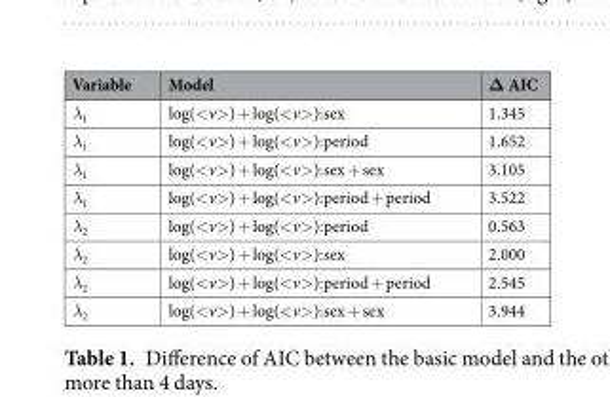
<table><thead><tr><td>Variable</td><td>Model</td><td>Δ AIC</td></tr></thead><tbody><tr><td>λ<sub>1</sub></td><td>log(&lt;v&gt;) + log(&lt;v&gt;):sex</td><td>1.345</td></tr><tr><td>λ<sub>1</sub></td><td>log(&lt;v&gt;) + log(&lt;v&gt;):period</td><td>1.652</td></tr><tr><td>λ<sub>1</sub></td><td>log(&lt;v&gt;) + log(&lt;v&gt;):sex + sex</td><td>3.105</td></tr><tr><td>λ<sub>1</sub></td><td>log(&lt;v&gt;) + log(&lt;v&gt;):period + period</td><td>3.522</td></tr><tr><td>λ<sub>2</sub></td><td>log(&lt;v&gt;) + log(&lt;v&gt;):period</td><td>0.563</td></tr><tr><td>λ<sub>2</sub></td><td>log(&lt;v&gt;) + log(&lt;v&gt;):sex</td><td>2.000</td></tr><tr><td>λ<sub>2</sub></td><td>log(&lt;v&gt;) + log(&lt;v&gt;):period + period</td><td>2.545</td></tr><tr><td>λ<sub>2</sub></td><td>log(&lt;v&gt;) + log(&lt;v&gt;):sex + sex</td><td>3.944</td></tr></tbody></table>